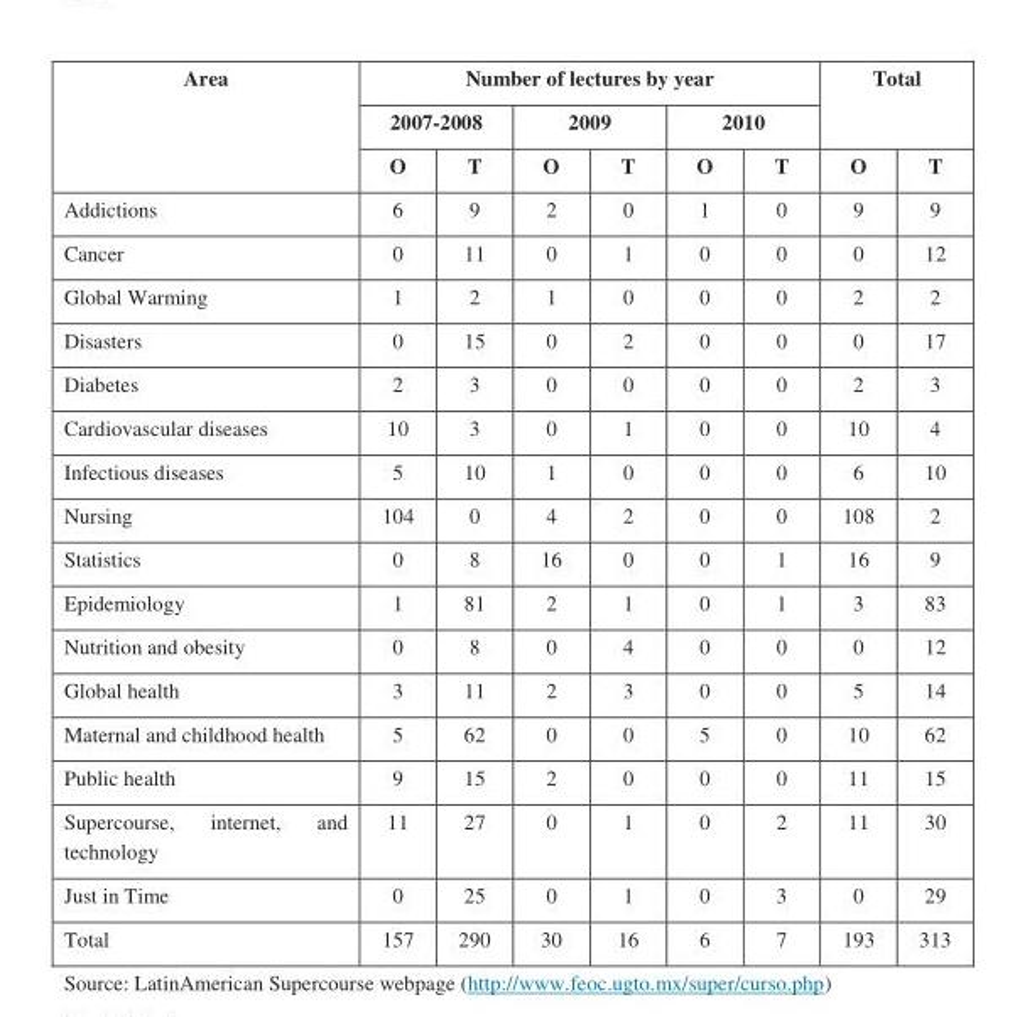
<table><thead><tr><td rowspan="3">Area</td><td colspan="6">Number of lectures by year</td><td rowspan="2" colspan="2">Total</td></tr><tr><td colspan="2">2007-2008</td><td colspan="2">2009</td><td colspan="2">2010</td></tr><tr><td>O</td><td>T</td><td>O</td><td>T</td><td>O</td><td>T</td><td>O</td><td>T</td></tr></thead><tbody><tr><td>Addictions</td><td>6</td><td>9</td><td>2</td><td>0</td><td>1</td><td>0</td><td>9</td><td>9</td></tr><tr><td>Cancer</td><td>0</td><td>11</td><td>0</td><td>1</td><td>0</td><td>0</td><td>0</td><td>12</td></tr><tr><td>Global Warming</td><td>1</td><td>2</td><td>1</td><td>0</td><td>0</td><td>0</td><td>2</td><td>2</td></tr><tr><td>Disasters</td><td>0</td><td>15</td><td>0</td><td>2</td><td>0</td><td>0</td><td>0</td><td>17</td></tr><tr><td>Diabetes</td><td>2</td><td>3</td><td>0</td><td>0</td><td>0</td><td>0</td><td>2</td><td>3</td></tr><tr><td>Cardiovascular diseases</td><td>10</td><td>3</td><td>0</td><td>1</td><td>0</td><td>0</td><td>10</td><td>4</td></tr><tr><td>Infectious diseases</td><td>5</td><td>10</td><td>1</td><td>0</td><td>0</td><td>0</td><td>6</td><td>10</td></tr><tr><td>Nursing</td><td>104</td><td>0</td><td>4</td><td>2</td><td>0</td><td>0</td><td>108</td><td>2</td></tr><tr><td>Statistics</td><td>0</td><td>8</td><td>16</td><td>0</td><td>0</td><td>1</td><td>16</td><td>9</td></tr><tr><td>Epidemiology</td><td>1</td><td>81</td><td>2</td><td>1</td><td>0</td><td>1</td><td>3</td><td>83</td></tr><tr><td>Nutrition and obesity</td><td>0</td><td>8</td><td>0</td><td>4</td><td>0</td><td>0</td><td>0</td><td>12</td></tr><tr><td>Global health</td><td>3</td><td>11</td><td>2</td><td>3</td><td>0</td><td>0</td><td>5</td><td>14</td></tr><tr><td>Maternal and childhood health</td><td>5</td><td>62</td><td>0</td><td>0</td><td>5</td><td>0</td><td>10</td><td>62</td></tr><tr><td>Public health</td><td>9</td><td>15</td><td>2</td><td>0</td><td>0</td><td>0</td><td>11</td><td>15</td></tr><tr><td>Supercourse, internet, and technology</td><td>11</td><td>27</td><td>0</td><td>1</td><td>0</td><td>2</td><td>11</td><td>30</td></tr><tr><td>Just in Time</td><td>0</td><td>25</td><td>0</td><td>1</td><td>0</td><td>3</td><td>0</td><td>29</td></tr><tr><td>Total</td><td>157</td><td>290</td><td>30</td><td>16</td><td>6</td><td>7</td><td>193</td><td>313</td></tr></tbody></table>